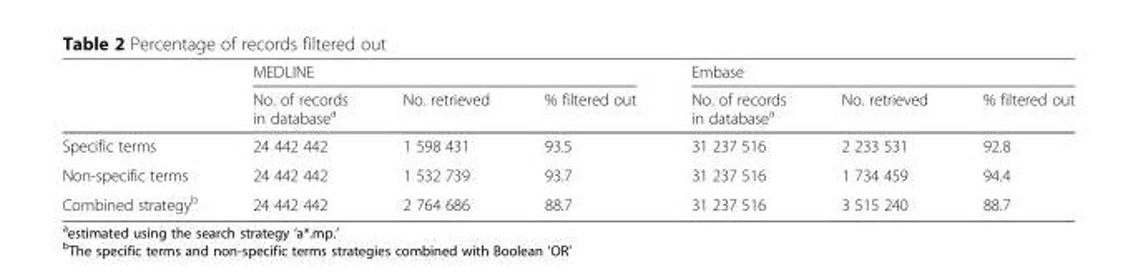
<table><thead><tr><td rowspan="2"></td><td colspan="3">MEDLINE</td><td colspan="3">Embase</td></tr><tr><td>No. of records in database<sup>a</sup></td><td>No. retrieved</td><td>% filtered out</td><td>No. of records in database<sup>a</sup></td><td>No. retrieved</td><td>% filtered out</td></tr></thead><tbody><tr><td>Specific terms</td><td>24 442 442</td><td>1 598 431</td><td>93.5</td><td>31 237 516</td><td>2 233 531</td><td>92.8</td></tr><tr><td>Non-specific terms</td><td>24 442 442</td><td>1 532 739</td><td>93.7</td><td>31 237 516</td><td>1 734 459</td><td>94.4</td></tr><tr><td>Combined strategy<sup>b</sup></td><td>24 442 442</td><td>2 764 686</td><td>88.7</td><td>31 237 516</td><td>3 515 240</td><td>88.7</td></tr></tbody></table>